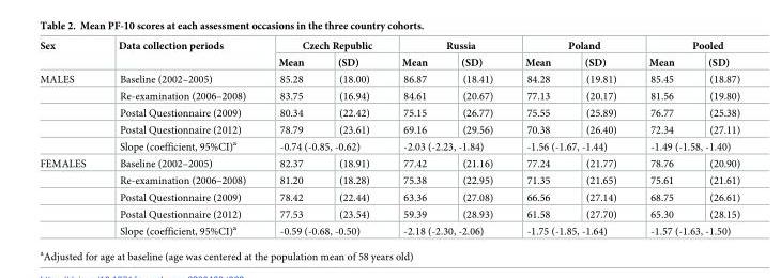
<table><thead><tr><td rowspan="2">Sex</td><td rowspan="2">Data collection periods</td><td colspan="2">Czech Republic</td><td colspan="2">Russia</td><td colspan="2">Poland</td><td colspan="2">Pooled</td></tr><tr><td>Mean</td><td>(SD)</td><td>Mean</td><td>(SD)</td><td>Mean</td><td>(SD)</td><td>Mean</td><td>(SD)</td></tr></thead><tbody><tr><td rowspan="5">MALES</td><td>Baseline (2002–2005)</td><td>85.28</td><td>(18.00)</td><td>86.87</td><td>(18.41)</td><td>84.28</td><td>(19.81)</td><td>85.45</td><td>(18.87)</td></tr><tr><td>Re-examination (2006–2008)</td><td>83.75</td><td>(16.94)</td><td>84.61</td><td>(20.67)</td><td>77.13</td><td>(20.17)</td><td>81.56</td><td>(19.80)</td></tr><tr><td>Postal Questionnaire (2009)</td><td>80.34</td><td>(22.42)</td><td>75.15</td><td>(26.77)</td><td>75.55</td><td>(25.89)</td><td>76.77</td><td>(25.38)</td></tr><tr><td>Postal Questionnaire (2012)</td><td>78.79</td><td>(23.61)</td><td>69.16</td><td>(29.56)</td><td>70.38</td><td>(26.40)</td><td>72.34</td><td>(27.11)</td></tr><tr><td>Slope (coefficient, 95%CI)<sup>a</sup></td><td colspan="2">-0.74 (-0.85, -0.62)</td><td colspan="2">-2.03 (-2.23, -1.84)</td><td colspan="2">-1.56 (-1.67, -1.44)</td><td colspan="2">-1.49 (-1.58, -1.40)</td></tr><tr><td rowspan="5">FEMALES</td><td>Baseline (2002–2005)</td><td>82.37</td><td>(18.91)</td><td>77.42</td><td>(21.16)</td><td>77.24</td><td>(21.77)</td><td>78.76</td><td>(20.90)</td></tr><tr><td>Re-examination (2006–2008)</td><td>81.20</td><td>(18.28)</td><td>75.38</td><td>(22.95)</td><td>71.35</td><td>(21.65)</td><td>75.61</td><td>(21.61)</td></tr><tr><td>Postal Questionnaire (2009)</td><td>78.42</td><td>(22.44)</td><td>63.36</td><td>(27.08)</td><td>66.56</td><td>(27.14)</td><td>68.75</td><td>(26.61)</td></tr><tr><td>Postal Questionnaire (2012)</td><td>77.53</td><td>(23.54)</td><td>59.39</td><td>(28.93)</td><td>61.58</td><td>(27.70)</td><td>65.30</td><td>(28.15)</td></tr><tr><td>Slope (coefficient, 95%CI)<sup>a</sup></td><td colspan="2">-0.59 (-0.68, -0.50)</td><td colspan="2">-2.18 (-2.30, -2.06)</td><td colspan="2">-1.75 (-1.85, -1.64)</td><td colspan="2">-1.57 (-1.63, -1.50)</td></tr></tbody></table>